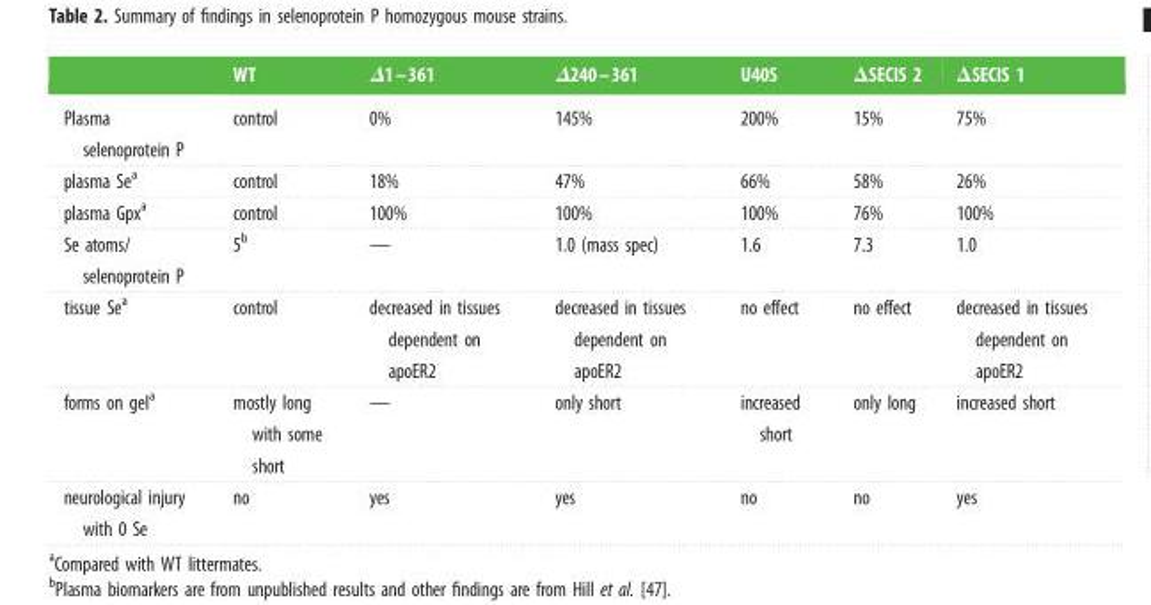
<table><thead><tr><td></td><td>WT</td><td>Δ1–361</td><td>Δ240–361</td><td>U40S</td><td>ΔSECIS 2</td><td>ΔSECIS 1</td></tr></thead><tbody><tr><td>Plasma selenoprotein P</td><td>control</td><td>0%</td><td>145%</td><td>200%</td><td>15%</td><td>75%</td></tr><tr><td>plasma Se<sup>a</sup></td><td>control</td><td>18%</td><td>47%</td><td>66%</td><td>58%</td><td>26%</td></tr><tr><td>plasma Gpx<sup>a</sup></td><td>control</td><td>100%</td><td>100%</td><td>100%</td><td>76%</td><td>100%</td></tr><tr><td>Se atoms/ selenoprotein P</td><td>5<sup>b</sup></td><td>—</td><td>1.0 (mass spec)</td><td>1.6</td><td>7.3</td><td>1.0</td></tr><tr><td>tissue Se<sup>a</sup></td><td>control</td><td>decreased in tissues dependent on apoER2</td><td>decreased in tissues dependent on apoER2</td><td>no effect</td><td>no effect</td><td>decreased in tissues dependent on apoER2</td></tr><tr><td>forms on gel<sup>a</sup></td><td>mostly long with some short</td><td>—</td><td>only short</td><td>increased short</td><td>only long</td><td>increased short</td></tr><tr><td>neurological injury with 0 Se</td><td>no</td><td>yes</td><td>yes</td><td>no</td><td>no</td><td>yes</td></tr></tbody></table>